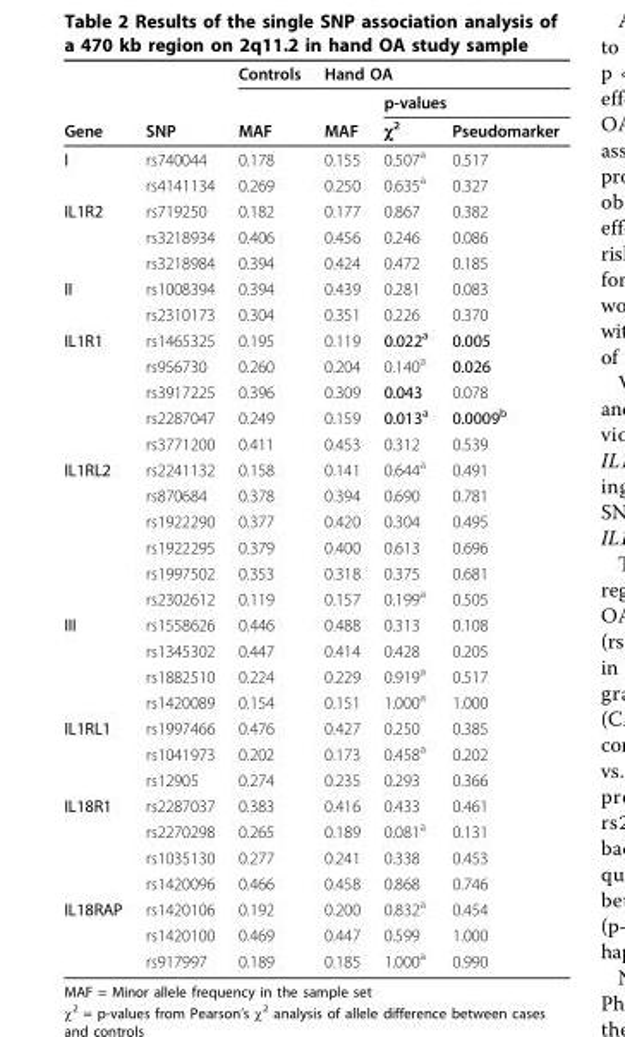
<table><thead><tr><td rowspan="3">Gene</td><td rowspan="3">SNP</td><td rowspan="3">Controls MAF</td><td colspan="3">Hand OA</td></tr><tr><td rowspan="2">MAF</td><td colspan="2">p-values</td></tr><tr><td>χ<sup>2</sup></td><td>Pseudomarker</td></tr></thead><tbody><tr><td rowspan="2">I</td><td>rs740044</td><td>0.178</td><td>0.155</td><td>0.507<sup>a</sup></td><td>0.517</td></tr><tr><td>rs4141134</td><td>0.269</td><td>0.250</td><td>0.635<sup>a</sup></td><td>0.327</td></tr><tr><td rowspan="3">IL1R2</td><td>rs719250</td><td>0.182</td><td>0.177</td><td>0.867</td><td>0.382</td></tr><tr><td>rs3218934</td><td>0.406</td><td>0.456</td><td>0.246</td><td>0.086</td></tr><tr><td>rs3218984</td><td>0.394</td><td>0.424</td><td>0.472</td><td>0.185</td></tr><tr><td rowspan="2">II</td><td>rs1008394</td><td>0.394</td><td>0.439</td><td>0.281</td><td>0.083</td></tr><tr><td>rs2310173</td><td>0.304</td><td>0.351</td><td>0.226</td><td>0.370</td></tr><tr><td rowspan="5">IL1R1</td><td>rs1465325</td><td>0.195</td><td>0.119</td><td>0.022<sup>a</sup></td><td>0.005</td></tr><tr><td>rs956730</td><td>0.260</td><td>0.204</td><td>0.140<sup>a</sup></td><td>0.026</td></tr><tr><td>rs3917225</td><td>0.396</td><td>0.309</td><td>0.043</td><td>0.078</td></tr><tr><td>rs2287047</td><td>0.249</td><td>0.159</td><td>0.013<sup>a</sup></td><td>0.0009<sup>b</sup></td></tr><tr><td>rs3771200</td><td>0.411</td><td>0.453</td><td>0.312</td><td>0.539</td></tr><tr><td rowspan="6">IL1RL2</td><td>rs2241132</td><td>0.158</td><td>0.141</td><td>0.644<sup>a</sup></td><td>0.491</td></tr><tr><td>rs870684</td><td>0.378</td><td>0.394</td><td>0.690</td><td>0.781</td></tr><tr><td>rs1922290</td><td>0.377</td><td>0.420</td><td>0.304</td><td>0.495</td></tr><tr><td>rs1922295</td><td>0.379</td><td>0.400</td><td>0.613</td><td>0.696</td></tr><tr><td>rs1997502</td><td>0.353</td><td>0.318</td><td>0.375</td><td>0.681</td></tr><tr><td>rs2302612</td><td>0.119</td><td>0.157</td><td>0.199<sup>a</sup></td><td>0.505</td></tr><tr><td rowspan="4">III</td><td>rs1558626</td><td>0.446</td><td>0.488</td><td>0.313</td><td>0.108</td></tr><tr><td>rs1345302</td><td>0.447</td><td>0.414</td><td>0.428</td><td>0.205</td></tr><tr><td>rs1882510</td><td>0.224</td><td>0.229</td><td>0.919<sup>a</sup></td><td>0.517</td></tr><tr><td>rs1420089</td><td>0.154</td><td>0.151</td><td>1.000<sup>a</sup></td><td>1.000</td></tr><tr><td rowspan="3">IL1RL1</td><td>rs1997466</td><td>0.476</td><td>0.427</td><td>0.250</td><td>0.385</td></tr><tr><td>rs1041973</td><td>0.202</td><td>0.173</td><td>0.458<sup>a</sup></td><td>0.202</td></tr><tr><td>rs12905</td><td>0.274</td><td>0.235</td><td>0.293</td><td>0.366</td></tr><tr><td rowspan="4">IL18R1</td><td>rs2287037</td><td>0.383</td><td>0.416</td><td>0.433</td><td>0.461</td></tr><tr><td>rs2270298</td><td>0.265</td><td>0.189</td><td>0.081<sup>a</sup></td><td>0.131</td></tr><tr><td>rs1035130</td><td>0.277</td><td>0.241</td><td>0.338</td><td>0.453</td></tr><tr><td>rs1420096</td><td>0.466</td><td>0.458</td><td>0.868</td><td>0.746</td></tr><tr><td rowspan="3">IL18RAP</td><td>rs1420106</td><td>0.192</td><td>0.200</td><td>0.832<sup>a</sup></td><td>0.454</td></tr><tr><td>rs1420100</td><td>0.469</td><td>0.447</td><td>0.599</td><td>1.000</td></tr><tr><td>rs917997</td><td>0.189</td><td>0.185</td><td>1.000<sup>a</sup></td><td>0.990</td></tr></tbody></table>